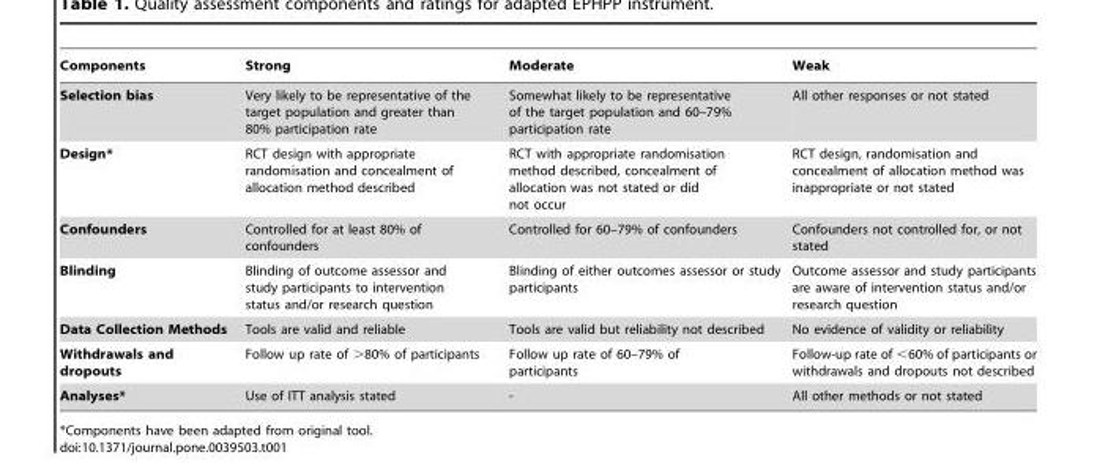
<table><thead><tr><td>Components</td><td>Strong</td><td>Moderate</td><td>Weak</td></tr></thead><tbody><tr><td>Selection bias</td><td>Very likely to be representative of the target population and greater than 80% participation rate</td><td>Somewhat likely to be representative of the target population and 60–79% participation rate</td><td>All other responses or not stated</td></tr><tr><td>Design*</td><td>RCT design with appropriate randomisation and concealment of allocation method described</td><td>RCT with appropriate randomisation method described, concealment of allocation was not stated or did not occur</td><td>RCT design, randomisation and concealment of allocation method was inappropriate or not stated</td></tr><tr><td>Confounders</td><td>Controlled for at least 80% of confounders</td><td>Controlled for 60–79% of confounders</td><td>Confounders not controlled for, or not stated</td></tr><tr><td>Blinding</td><td>Blinding of outcome assessor and study participants to intervention status and/or research question</td><td>Blinding of either outcomes assessor or study participants</td><td>Outcome assessor and study participants are aware of intervention status and/or research question</td></tr><tr><td>Data Collection Methods</td><td>Tools are valid and reliable</td><td>Tools are valid but reliability not described</td><td>No evidence of validity or reliability</td></tr><tr><td>Withdrawals and dropouts</td><td>Follow up rate of &gt;80% of participants</td><td>Follow up rate of 60–79% of participants</td><td>Follow-up rate of &lt;60% of participants or withdrawals and dropouts not described</td></tr><tr><td>Analyses*</td><td>Use of ITT analysis stated</td><td>-</td><td>All other methods or not stated</td></tr></tbody></table>